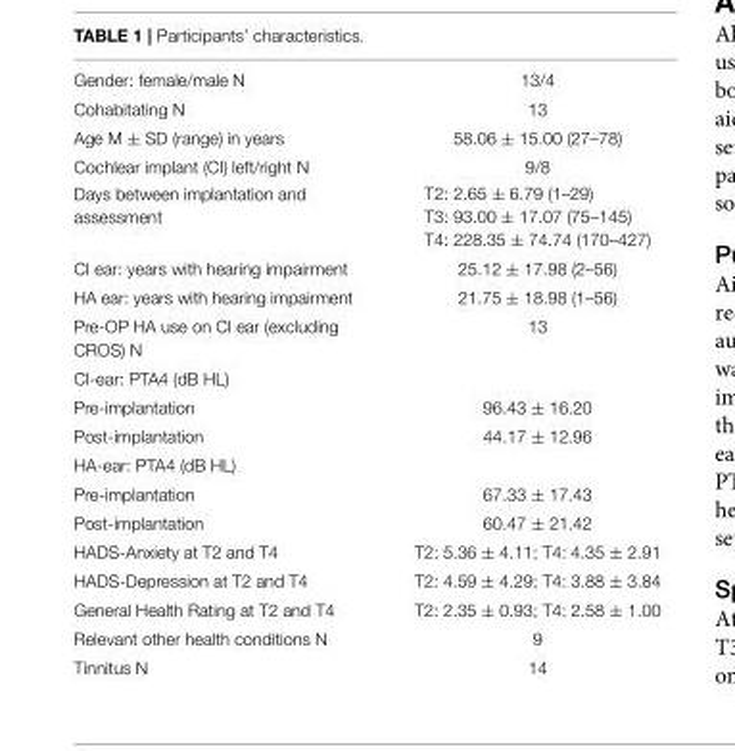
<table><tbody><tr><td>Gender: female/male N</td><td>13/4</td></tr><tr><td>Cohabitating N</td><td>13</td></tr><tr><td>Age M ± SD (range) in years</td><td>58.06 ± 15.00 (27–78)</td></tr><tr><td>Cochlear implant (CI) left/right N</td><td>9/8</td></tr><tr><td>Days between implantation and assessment</td><td>T2: 2.65 ± 6.79 (1–29) T3: 93.00 ± 17.07 (75–145) T4: 228.35 ± 74.74 (170–427)</td></tr><tr><td>CI ear: years with hearing impairment</td><td>25.12 ± 17.98 (2–56)</td></tr><tr><td>HA ear: years with hearing impairment</td><td>21.75 ± 18.98 (1–56)</td></tr><tr><td>Pre-OP HA use on CI ear (excluding CROS) N</td><td>13</td></tr><tr><td colspan="2">CI-ear: PTA4 (dB HL)</td></tr><tr><td>Pre-implantation</td><td>96.43 ± 16.20</td></tr><tr><td>Post-implantation</td><td>44.17 ± 12.96</td></tr><tr><td colspan="2">HA-ear: PTA4 (dB HL)</td></tr><tr><td>Pre-implantation</td><td>67.33 ± 17.43</td></tr><tr><td>Post-implantation</td><td>60.47 ± 21.42</td></tr><tr><td>HADS-Anxiety at T2 and T4</td><td>T2: 5.36 ± 4.11; T4: 4.35 ± 2.91</td></tr><tr><td>HADS-Depression at T2 and T4</td><td>T2: 4.59 ± 4.29; T4: 3.88 ± 3.84</td></tr><tr><td>General Health Rating at T2 and T4</td><td>T2: 2.35 ± 0.93; T4: 2.58 ± 1.00</td></tr><tr><td>Relevant other health conditions N</td><td>9</td></tr><tr><td>Tinnitus N</td><td>14</td></tr></tbody></table>